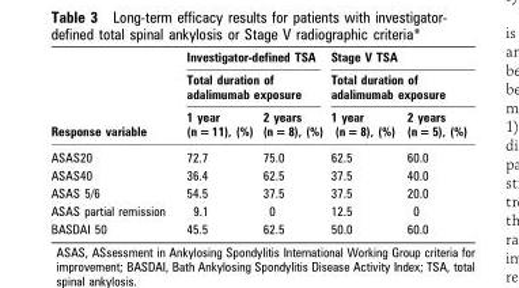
<table><thead><tr><td rowspan="3">Response variable</td><td rowspan="2" colspan="2">Investigator-defined TSA Total duration of adalimumab exposure</td><td rowspan="2" colspan="2">Stage V TSA Total duration of adalimumab exposure</td></tr><tr></tr><tr><td>1 year (n = 11), (%)</td><td>2 years (n = 8), (%)</td><td>1 year (n = 8), (%)</td><td>2 years (n = 5), (%)</td></tr></thead><tbody><tr><td>ASAS20</td><td>72.7</td><td>75.0</td><td>62.5</td><td>60.0</td></tr><tr><td>ASAS40</td><td>36.4</td><td>62.5</td><td>37.5</td><td>40.0</td></tr><tr><td>ASAS 5/6</td><td>54.5</td><td>37.5</td><td>37.5</td><td>20.0</td></tr><tr><td>ASAS partial remission</td><td>9.1</td><td>0</td><td>12.5</td><td>0</td></tr><tr><td>BASDAI 50</td><td>45.5</td><td>62.5</td><td>50.0</td><td>60.0</td></tr></tbody></table>